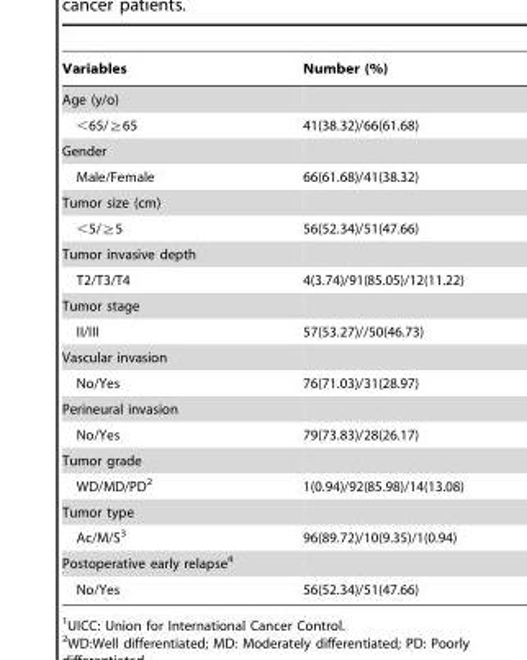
<table><thead><tr><td>Variables</td><td>Number (%)</td></tr></thead><tbody><tr><td colspan="2">Age (y/o)</td></tr><tr><td>&lt;65/≧65</td><td>41(38.32)/66(61.68)</td></tr><tr><td colspan="2">Gender</td></tr><tr><td>Male/Female</td><td>66(61.68)/41(38.32)</td></tr><tr><td colspan="2">Tumor size (cm)</td></tr><tr><td>&lt;5/≧5</td><td>56(52.34)/51(47.66)</td></tr><tr><td colspan="2">Tumor invasive depth</td></tr><tr><td>T2/T3/T4</td><td>4(3.74)/91(85.05)/12(11.22)</td></tr><tr><td colspan="2">Tumor stage</td></tr><tr><td>II/III</td><td>57(53.27)//50(46.73)</td></tr><tr><td colspan="2">Vascular invasion</td></tr><tr><td>No/Yes</td><td>76(71.03)/31(28.97)</td></tr><tr><td colspan="2">Perineural invasion</td></tr><tr><td>No/Yes</td><td>79(73.83)/28(26.17)</td></tr><tr><td colspan="2">Tumor grade</td></tr><tr><td>WD/MD/PD<sup>2</sup></td><td>1(0.94)/92(85.98)/14(13.08)</td></tr><tr><td colspan="2">Tumor type</td></tr><tr><td>Ac/M/S<sup>3</sup></td><td>96(89.72)/10(9.35)/1(0.94)</td></tr><tr><td colspan="2">Postoperative early relapse<sup>4</sup></td></tr><tr><td>No/Yes</td><td>56(52.34)/51(47.66)</td></tr></tbody></table>